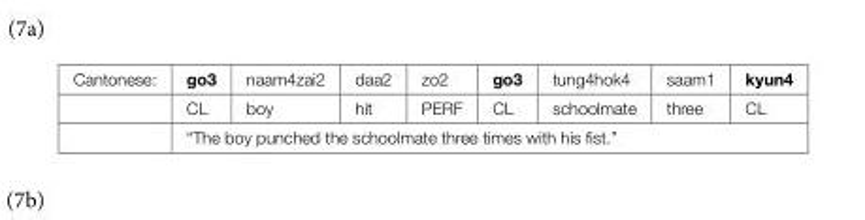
<table><tbody><tr><td rowspan="3">Cantonese:</td><td>go3</td><td>naam4zai2</td><td>daa2</td><td>zo2</td><td>go3</td><td>tung4hok4</td><td>saam1</td><td>kyun4</td></tr><tr><td>CL</td><td>boy</td><td>hit</td><td>PERF</td><td>CL</td><td>schoolmate</td><td>three</td><td>CL</td></tr><tr><td colspan="8">“The boy punched the schoolmate three times with his fist.”</td></tr></tbody></table>